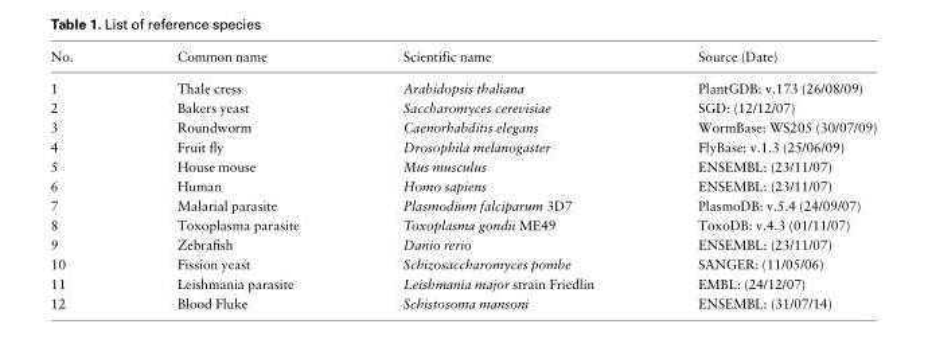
<table><thead><tr><td>No.</td><td>Common name</td><td>Scientific name</td><td>Source (Date)</td></tr></thead><tbody><tr><td>1</td><td>Thale cress</td><td>Arabidopsis thaliana</td><td>PlantGDB: v.173 (26/08/09)</td></tr><tr><td>2</td><td>Bakers yeast</td><td>Saccharomyces cerevisiae</td><td>SGD: (12/12/07)</td></tr><tr><td>3</td><td>Roundworm</td><td>Caenorhabditis elegans</td><td>WormBase: WS205 (30/07/09)</td></tr><tr><td>4</td><td>Fruit fly</td><td>Drosophila melanogaster</td><td>FlyBase: v.1.3 (25/06/09)</td></tr><tr><td>5</td><td>House mouse</td><td>Mus musculus</td><td>ENSEMBL: (23/11/07)</td></tr><tr><td>6</td><td>Human</td><td>Homo sapiens</td><td>ENSEMBL: (23/11/07)</td></tr><tr><td>7</td><td>Malarial parasite</td><td>Plasmodium falciparum 3D7</td><td>PlasmoDB: v.5.4 (24/09/07)</td></tr><tr><td>8</td><td>Toxoplasma parasite</td><td>Toxoplasma gondii ME49</td><td>ToxoDB: v.4.3 (01/11/07)</td></tr><tr><td>9</td><td>Zebrafish</td><td>Danio rerio</td><td>ENSEMBL: (23/11/07)</td></tr><tr><td>10</td><td>Fission yeast</td><td>Schizosaccharomyces pombe</td><td>SANGER: (11/05/06)</td></tr><tr><td>11</td><td>Leishmania parasite</td><td>Leishmania major strain Friedlin</td><td>EMBL: (24/12/07)</td></tr><tr><td>12</td><td>Blood Fluke</td><td>Schistosoma mansoni</td><td>ENSEMBL: (31/07/14)</td></tr></tbody></table>